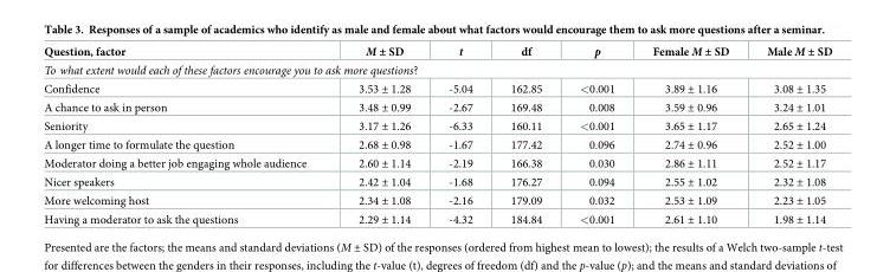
<table><thead><tr><td>Question, factor</td><td>M ± SD</td><td>t</td><td>df</td><td>p</td><td>Female M ± SD</td><td>Male M ± SD</td></tr></thead><tbody><tr><td colspan="7">To what extent would each of these factors encourage you to ask more questions?</td></tr><tr><td>Confidence</td><td>3.53 ± 1.28</td><td>-5.04</td><td>162.85</td><td>&lt;0.001</td><td>3.89 ± 1.16</td><td>3.08 ± 1.35</td></tr><tr><td>A chance to ask in person</td><td>3.48 ± 0.99</td><td>-2.67</td><td>169.48</td><td>0.008</td><td>3.59 ± 0.96</td><td>3.24 ± 1.01</td></tr><tr><td>Seniority</td><td>3.17 ± 1.26</td><td>-6.33</td><td>160.11</td><td>&lt;0.001</td><td>3.65 ± 1.17</td><td>2.65 ± 1.24</td></tr><tr><td>A longer time to formulate the question</td><td>2.68 ± 0.98</td><td>-1.67</td><td>177.42</td><td>0.096</td><td>2.74 ± 0.96</td><td>2.52 ± 1.00</td></tr><tr><td>Moderator doing a better job engaging whole audience</td><td>2.60 ± 1.14</td><td>-2.19</td><td>166.38</td><td>0.030</td><td>2.86 ± 1.11</td><td>2.52 ± 1.17</td></tr><tr><td>Nicer speakers</td><td>2.42 ± 1.04</td><td>-1.68</td><td>176.27</td><td>0.094</td><td>2.55 ± 1.02</td><td>2.32 ± 1.08</td></tr><tr><td>More welcoming host</td><td>2.34 ± 1.08</td><td>-2.16</td><td>179.09</td><td>0.032</td><td>2.53 ± 1.09</td><td>2.23 ± 1.05</td></tr><tr><td>Having a moderator to ask the questions</td><td>2.29 ± 1.14</td><td>-4.32</td><td>184.84</td><td>&lt;0.001</td><td>2.61 ± 1.10</td><td>1.98 ± 1.14</td></tr></tbody></table>